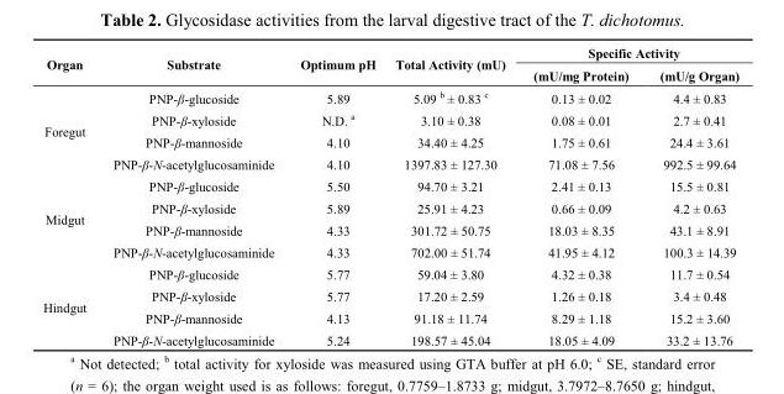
<table><thead><tr><td rowspan="2">Organ</td><td rowspan="2">Substrate</td><td rowspan="2">Optimum pH</td><td rowspan="2">Total Activity (mU)</td><td colspan="2">Specific Activity</td></tr><tr><td>(mU/mg Protein)</td><td>(mU/g Organ)</td></tr></thead><tbody><tr><td rowspan="4">Foregut</td><td>PNP-β-glucoside</td><td>5.89</td><td>5.09 <sup>b</sup> ± 0.83 <sup>c</sup></td><td>0.13 ± 0.02</td><td>4.4 ± 0.83</td></tr><tr><td>PNP-β-xyloside</td><td>N.D. <sup>a</sup></td><td>3.10 ± 0.38</td><td>0.08 ± 0.01</td><td>2.7 ± 0.41</td></tr><tr><td>PNP-β-mannoside</td><td>4.10</td><td>34.40 ± 4.25</td><td>1.75 ± 0.61</td><td>24.4 ± 3.61</td></tr><tr><td>PNP-β-N-acetylglucosaminide</td><td>4.10</td><td>1397.83 ± 127.30</td><td>71.08 ± 7.56</td><td>992.5 ± 99.64</td></tr><tr><td rowspan="4">Midgut</td><td>PNP-β-glucoside</td><td>5.50</td><td>94.70 ± 3.21</td><td>2.41 ± 0.13</td><td>15.5 ± 0.81</td></tr><tr><td>PNP-β-xyloside</td><td>5.89</td><td>25.91 ± 4.23</td><td>0.66 ± 0.09</td><td>4.2 ± 0.63</td></tr><tr><td>PNP-β-mannoside</td><td>4.33</td><td>301.72 ± 50.75</td><td>18.03 ± 8.35</td><td>43.1 ± 8.91</td></tr><tr><td>PNP-β-N-acetylglucosaminide</td><td>4.33</td><td>702.00 ± 51.74</td><td>41.95 ± 4.12</td><td>100.3 ± 14.39</td></tr><tr><td rowspan="4">Hindgut</td><td>PNP-β-glucoside</td><td>5.77</td><td>59.04 ± 3.80</td><td>4.32 ± 0.38</td><td>11.7 ± 0.54</td></tr><tr><td>PNP-β-xyloside</td><td>5.77</td><td>17.20 ± 2.59</td><td>1.26 ± 0.18</td><td>3.4 ± 0.48</td></tr><tr><td>PNP-β-mannoside</td><td>4.13</td><td>91.18 ± 11.74</td><td>8.29 ± 1.18</td><td>15.2 ± 3.60</td></tr><tr><td>PNP-β-N-acetylglucosaminide</td><td>5.24</td><td>198.57 ± 45.04</td><td>18.05 ± 4.09</td><td>33.2 ± 13.76</td></tr></tbody></table>